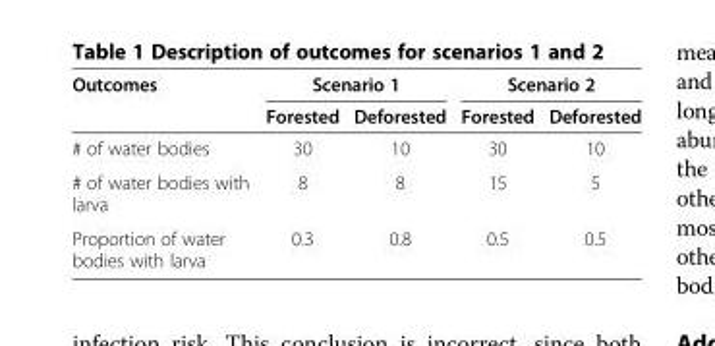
<table><thead><tr><td rowspan="2">Outcomes</td><td colspan="2">Scenario 1</td><td colspan="2">Scenario 2</td></tr><tr><td>Forested</td><td>Deforested</td><td>Forested</td><td>Deforested</td></tr></thead><tbody><tr><td># of water bodies</td><td>30</td><td>10</td><td>30</td><td>10</td></tr><tr><td># of water bodies with larva</td><td>8</td><td>8</td><td>15</td><td>5</td></tr><tr><td>Proportion of water bodies with larva</td><td>0.3</td><td>0.8</td><td>0.5</td><td>0.5</td></tr></tbody></table>